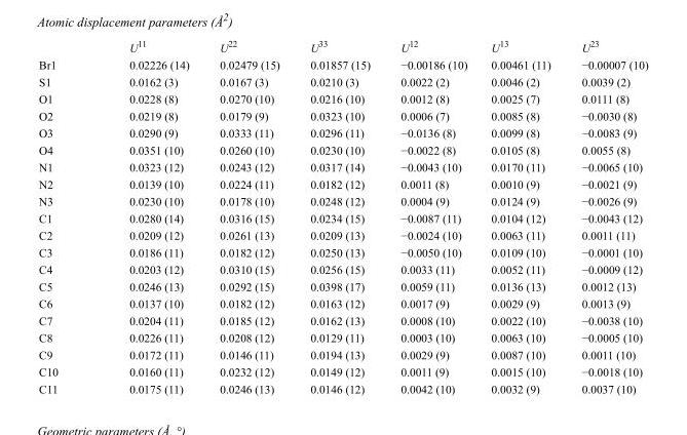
<table><thead><tr><td></td><td>U<sup>11</sup></td><td>U<sup>22</sup></td><td>U<sup>33</sup></td><td>U<sup>12</sup></td><td>U<sup>13</sup></td><td>U<sup>23</sup></td></tr></thead><tbody><tr><td>Br1</td><td>0.02226 (14)</td><td>0.02479 (15)</td><td>0.01857 (15)</td><td>−0.00186 (10)</td><td>0.00461 (11)</td><td>−0.00007 (10)</td></tr><tr><td>S1</td><td>0.0162 (3)</td><td>0.0167 (3)</td><td>0.0210 (3)</td><td>0.0022 (2)</td><td>0.0046 (2)</td><td>0.0039 (2)</td></tr><tr><td>O1</td><td>0.0228 (8)</td><td>0.0270 (10)</td><td>0.0216 (10)</td><td>0.0012 (8)</td><td>0.0025 (7)</td><td>0.0111 (8)</td></tr><tr><td>O2</td><td>0.0219 (8)</td><td>0.0179 (9)</td><td>0.0323 (10)</td><td>0.0006 (7)</td><td>0.0085 (8)</td><td>−0.0030 (8)</td></tr><tr><td>O3</td><td>0.0290 (9)</td><td>0.0333 (11)</td><td>0.0296 (11)</td><td>−0.0136 (8)</td><td>0.0099 (8)</td><td>−0.0083 (9)</td></tr><tr><td>O4</td><td>0.0351 (10)</td><td>0.0260 (10)</td><td>0.0230 (10)</td><td>−0.0022 (8)</td><td>0.0105 (8)</td><td>0.0055 (8)</td></tr><tr><td>N1</td><td>0.0323 (12)</td><td>0.0243 (12)</td><td>0.0317 (14)</td><td>−0.0043 (10)</td><td>0.0170 (11)</td><td>−0.0065 (10)</td></tr><tr><td>N2</td><td>0.0139 (10)</td><td>0.0224 (11)</td><td>0.0182 (12)</td><td>0.0011 (8)</td><td>0.0010 (9)</td><td>−0.0021 (9)</td></tr><tr><td>N3</td><td>0.0230 (10)</td><td>0.0178 (10)</td><td>0.0248 (12)</td><td>0.0004 (9)</td><td>0.0124 (9)</td><td>−0.0026 (9)</td></tr><tr><td>C1</td><td>0.0280 (14)</td><td>0.0316 (15)</td><td>0.0234 (15)</td><td>−0.0087 (11)</td><td>0.0104 (12)</td><td>−0.0043 (12)</td></tr><tr><td>C2</td><td>0.0209 (12)</td><td>0.0261 (13)</td><td>0.0209 (13)</td><td>−0.0024 (10)</td><td>0.0063 (11)</td><td>0.0011 (11)</td></tr><tr><td>C3</td><td>0.0186 (11)</td><td>0.0182 (12)</td><td>0.0250 (13)</td><td>−0.0050 (10)</td><td>0.0109 (10)</td><td>−0.0001 (10)</td></tr><tr><td>C4</td><td>0.0203 (12)</td><td>0.0310 (15)</td><td>0.0256 (15)</td><td>0.0033 (11)</td><td>0.0052 (11)</td><td>−0.0009 (12)</td></tr><tr><td>C5</td><td>0.0246 (13)</td><td>0.0292 (15)</td><td>0.0398 (17)</td><td>0.0059 (11)</td><td>0.0136 (13)</td><td>0.0012 (13)</td></tr><tr><td>C6</td><td>0.0137 (10)</td><td>0.0182 (12)</td><td>0.0163 (12)</td><td>0.0017 (9)</td><td>0.0029 (9)</td><td>0.0013 (9)</td></tr><tr><td>C7</td><td>0.0204 (11)</td><td>0.0185 (12)</td><td>0.0162 (13)</td><td>0.0008 (10)</td><td>0.0022 (10)</td><td>−0.0038 (10)</td></tr><tr><td>C8</td><td>0.0226 (11)</td><td>0.0208 (12)</td><td>0.0129 (11)</td><td>0.0003 (10)</td><td>0.0063 (10)</td><td>−0.0005 (10)</td></tr><tr><td>C9</td><td>0.0172 (11)</td><td>0.0146 (11)</td><td>0.0194 (13)</td><td>0.0029 (9)</td><td>0.0087 (10)</td><td>0.0011 (10)</td></tr><tr><td>C10</td><td>0.0160 (11)</td><td>0.0232 (12)</td><td>0.0149 (12)</td><td>0.0011 (9)</td><td>0.0015 (10)</td><td>−0.0018 (10)</td></tr><tr><td>C11</td><td>0.0175 (11)</td><td>0.0246 (13)</td><td>0.0146 (12)</td><td>0.0042 (10)</td><td>0.0032 (9)</td><td>0.0037 (10)</td></tr></tbody></table>